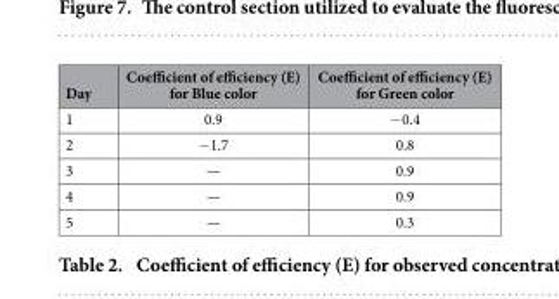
<table><thead><tr><td>Day</td><td>Coefficient of efficiency (E) for Blue color</td><td>Coefficient of efficiency (E) for Green color</td></tr></thead><tbody><tr><td>1</td><td>0.9</td><td>− 0.4</td></tr><tr><td>2</td><td>− 1.7</td><td>0.8</td></tr><tr><td>3</td><td>—</td><td>0.9</td></tr><tr><td>4</td><td>—</td><td>0.9</td></tr><tr><td>5</td><td>—</td><td>0.3</td></tr></tbody></table>